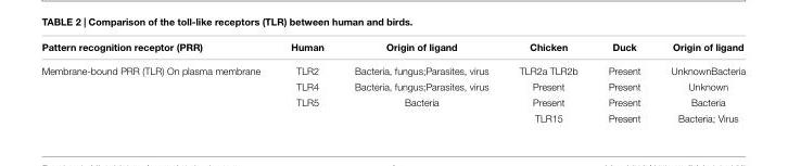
<table><thead><tr><td>Pattern recognition receptor (PRR)</td><td>Human</td><td>Origin of ligand</td><td>Chicken</td><td>Duck</td><td>Origin of ligand</td></tr></thead><tbody><tr><td rowspan="4">Membrane-bound PRR (TLR) On plasma membrane</td><td>TLR2</td><td>Bacteria, fungus;Parasites, virus</td><td>TLR2a TLR2b</td><td>Present</td><td>UnknownBacteria</td></tr><tr><td>TLR4</td><td>Bacteria, fungus;Parasites, virus</td><td>Present</td><td>Present</td><td>Unknown</td></tr><tr><td>TLR5</td><td>Bacteria</td><td>Present</td><td>Present</td><td>Bacteria</td></tr><tr><td></td><td></td><td>TLR15</td><td>Present</td><td>Bacteria; Virus</td></tr></tbody></table>